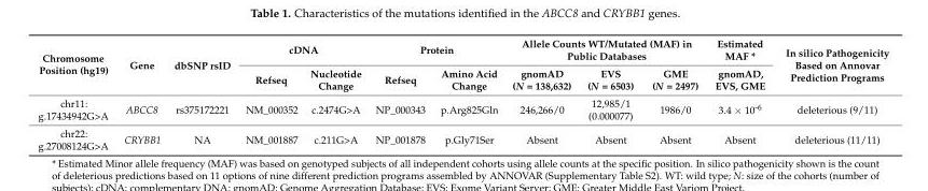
<table><thead><tr><td rowspan="2">Chromosome Position (hg19)</td><td rowspan="2">Gene</td><td rowspan="2">dbSNP rsID</td><td colspan="2">cDNA</td><td colspan="2">Protein</td><td colspan="3">Allele Counts WT/Mutated (MAF) in Public Databases</td><td rowspan="2">Estimated MAF * gnomAD, EVS, GME</td><td rowspan="2">In silico Pathogenicity Based on Annovar Prediction Programs</td></tr><tr><td>Refseq</td><td>Nucleotide Change</td><td>Refseq</td><td>Amino Acid Change</td><td>gnomAD (N = 138,632)</td><td>EVS (N = 6503)</td><td>GME (N = 2497)</td></tr></thead><tbody><tr><td>chr11: g.17434942G&gt;A</td><td>ABCC8</td><td>rs375172221</td><td>NM_000352</td><td>c.2474G&gt;A</td><td>NP_000343</td><td>p.Arg825Gln</td><td>246,266/0</td><td>12,985/1 (0.000077)</td><td>1986/0</td><td>3.4 × 10<sup>-6</sup></td><td>deleterious (9/11)</td></tr><tr><td>chr22: g.27008124G&gt;A</td><td>CRYBB1</td><td>NA</td><td>NM_001887</td><td>c.211G&gt;A</td><td>NP_001878</td><td>p.Gly71Ser</td><td>Absent</td><td>Absent</td><td>Absent</td><td>Absent</td><td>deleterious (11/11)</td></tr></tbody></table>